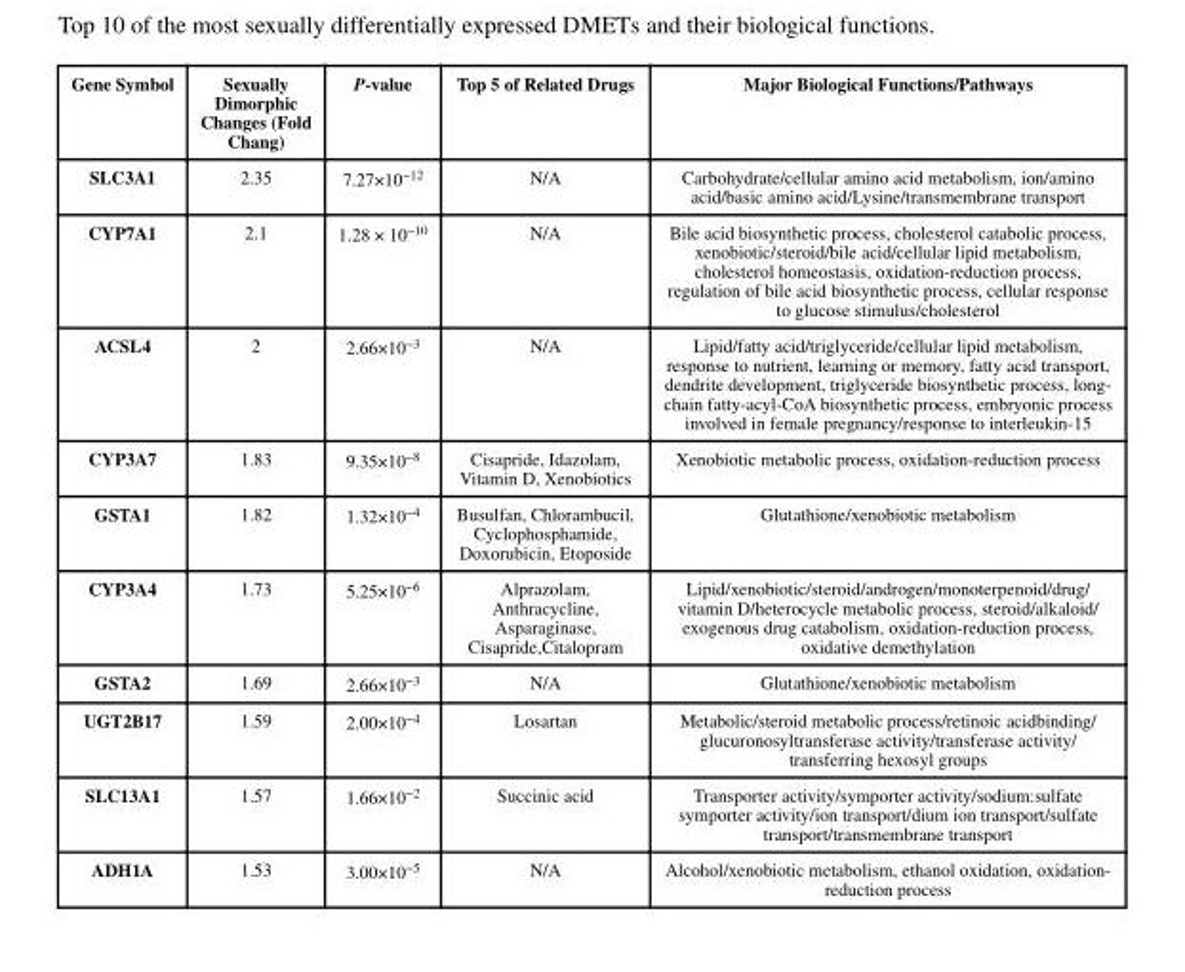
<table><thead><tr><td>Gene Symbol</td><td>Sexually Dimorphic Changes (Fold Chang)</td><td>P-value</td><td>Top 5 of Related Drugs</td><td>Major Biological Functions/Pathways</td></tr></thead><tbody><tr><td>SLC3A1</td><td>2.35</td><td>7.27×10<sup>−12</sup></td><td>N/A</td><td>Carbohydrate/cellular amino acid metabolism, ion/amino acid/basic amino acid/Lysine/transmembrane transport</td></tr><tr><td>CYP7A1</td><td>2.1</td><td>1.28 × 10<sup>−10</sup></td><td>N/A</td><td>Bile acid biosynthetic process, cholesterol catabolic process, xenobiotic/steroid/bile acid/cellular lipid metabolism, cholesterol homeostasis, oxidation-reduction process, regulation of bile acid biosynthetic process, cellular response to glucose stimulus/cholesterol</td></tr><tr><td>ACSL4</td><td>2</td><td>2.66×10<sup>−3</sup></td><td>N/A</td><td>Lipid/fatty acid/triglyceride/cellular lipid metabolism, response to nutrient, learning or memory, fatty acid transport, dendrite development, triglyceride biosynthetic process, long- chain fatty-acyl-CoA biosynthetic process, embryonic process involved in female pregnancy/response to interleukin-15</td></tr><tr><td>CYP3A7</td><td>1.83</td><td>9.35×10<sup>−8</sup></td><td>Cisapride, Idazolam, Vitamin D, Xenobiotics</td><td>Xenobiotic metabolic process, oxidation-reduction process</td></tr><tr><td>GSTA1</td><td>1.82</td><td>1.32×10<sup>−4</sup></td><td>Busulfan, Chlorambucil, Cyclophosphamide, Doxorubicin, Etoposide</td><td>Glutathione/xenobiotic metabolism</td></tr><tr><td>CYP3A4</td><td>1.73</td><td>5.25×10<sup>−6</sup></td><td>Alprazolam, Anthracycline, Asparaginase, Cisapride,Citalopram</td><td>Lipid/xenobiotic/steroid/androgen/monoterpenoid/drug/ vitamin D/heterocycle metabolic process, steroid/alkaloid/ exogenous drug catabolism, oxidation-reduction process, oxidative demethylation</td></tr><tr><td>GSTA2</td><td>1.69</td><td>2.66×10<sup>−3</sup></td><td>N/A</td><td>Glutathione/xenobiotic metabolism</td></tr><tr><td>UGT2B17</td><td>1.59</td><td>2.00×10<sup>−4</sup></td><td>Losartan</td><td>Metabolic/steroid metabolic process/retinoic acidbinding/ glucuronosyltransferase activity/transferase activity/ transferring hexosyl groups</td></tr><tr><td>SLC13A1</td><td>1.57</td><td>1.66×10<sup>−2</sup></td><td>Succinic acid</td><td>Transporter activity/symporter activity/sodium:sulfate symporter activity/ion transport/dium ion transport/sulfate transport/transmembrane transport</td></tr><tr><td>ADH1A</td><td>1.53</td><td>3.00×10<sup>−5</sup></td><td>N/A</td><td>Alcohol/xenobiotic metabolism, ethanol oxidation, oxidation- reduction process</td></tr></tbody></table>